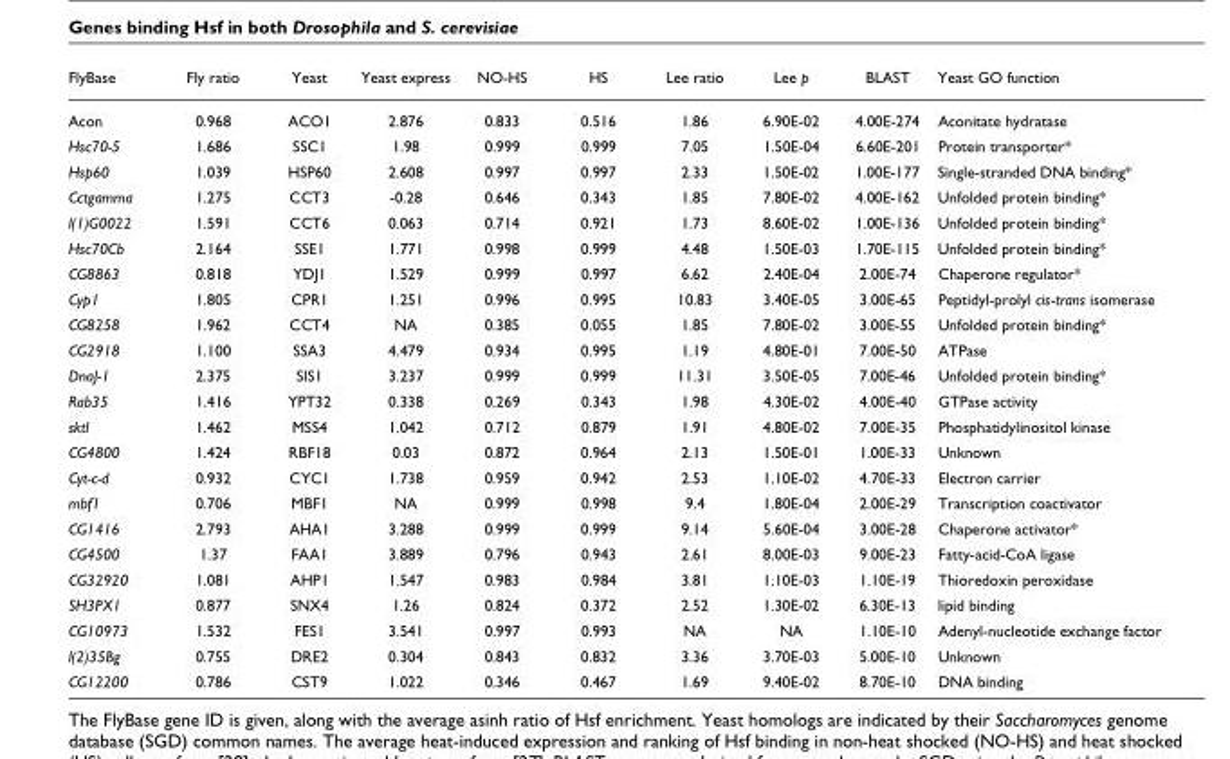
<table><thead><tr><td>FlyBase</td><td>Fly ratio</td><td>Yeast</td><td>Yeast express</td><td>NO-HS</td><td>HS</td><td>Lee ratio</td><td>Lee p</td><td>BLAST</td><td>Yeast GO function</td></tr></thead><tbody><tr><td>Acon</td><td>0.968</td><td>ACO1</td><td>2.876</td><td>0.833</td><td>0.516</td><td>1.86</td><td>6.90E-02</td><td>4.00E-274</td><td>Aconitate hydratase</td></tr><tr><td>Hsc70-5</td><td>1.686</td><td>SSC1</td><td>1.98</td><td>0.999</td><td>0.999</td><td>7.05</td><td>1.50E-04</td><td>6.60E-201</td><td>Protein transporter*</td></tr><tr><td>Hsp60</td><td>1.039</td><td>HSP60</td><td>2.608</td><td>0.997</td><td>0.997</td><td>2.33</td><td>1.50E-02</td><td>1.00E-177</td><td>Single-stranded DNA binding*</td></tr><tr><td>Cctgamma</td><td>1.275</td><td>CCT3</td><td>-0.28</td><td>0.646</td><td>0.343</td><td>1.85</td><td>7.80E-02</td><td>4.00E-162</td><td>Unfolded protein binding*</td></tr><tr><td>l(1)G0022</td><td>1.591</td><td>CCT6</td><td>0.063</td><td>0.714</td><td>0.921</td><td>1.73</td><td>8.60E-02</td><td>1.00E-136</td><td>Unfolded protein binding*</td></tr><tr><td>Hsc70Cb</td><td>2.164</td><td>SSE1</td><td>1.771</td><td>0.998</td><td>0.999</td><td>4.48</td><td>1.50E-03</td><td>1.70E-115</td><td>Unfolded protein binding*</td></tr><tr><td>CG8863</td><td>0.818</td><td>YDJ1</td><td>1.529</td><td>0.999</td><td>0.997</td><td>6.62</td><td>2.40E-04</td><td>2.00E-74</td><td>Chaperone regulator*</td></tr><tr><td>Cyp1</td><td>1.805</td><td>CPR1</td><td>1.251</td><td>0.996</td><td>0.995</td><td>10.83</td><td>3.40E-05</td><td>3.00E-65</td><td>Peptidyl-prolyl cis-trans isomerase</td></tr><tr><td>CG8258</td><td>1.962</td><td>CCT4</td><td>NA</td><td>0.385</td><td>0.055</td><td>1.85</td><td>7.80E-02</td><td>3.00E-55</td><td>Unfolded protein binding*</td></tr><tr><td>CG2918</td><td>1.100</td><td>SSA3</td><td>4.479</td><td>0.934</td><td>0.995</td><td>1.19</td><td>4.80E-01</td><td>7.00E-50</td><td>ATPase</td></tr><tr><td>DnaJ-1</td><td>2.375</td><td>SIS1</td><td>3.237</td><td>0.999</td><td>0.999</td><td>11.31</td><td>3.50E-05</td><td>7.00E-46</td><td>Unfolded protein binding*</td></tr><tr><td>Rab35</td><td>1.416</td><td>YPT32</td><td>0.338</td><td>0.269</td><td>0.343</td><td>1.98</td><td>4.30E-02</td><td>4.00E-40</td><td>GTPase activity</td></tr><tr><td>sktl</td><td>1.462</td><td>MSS4</td><td>1.042</td><td>0.712</td><td>0.879</td><td>1.91</td><td>4.80E-02</td><td>7.00E-35</td><td>Phosphatidylinositol kinase</td></tr><tr><td>CG4800</td><td>1.424</td><td>RBF18</td><td>0.03</td><td>0.872</td><td>0.964</td><td>2.13</td><td>1.50E-01</td><td>1.00E-33</td><td>Unknown</td></tr><tr><td>Cyt-c-d</td><td>0.932</td><td>CYC1</td><td>1.738</td><td>0.959</td><td>0.942</td><td>2.53</td><td>1.10E-02</td><td>4.70E-33</td><td>Electron carrier</td></tr><tr><td>mbf1</td><td>0.706</td><td>MBF1</td><td>NA</td><td>0.999</td><td>0.998</td><td>9.4</td><td>1.80E-04</td><td>2.00E-29</td><td>Transcription coactivator</td></tr><tr><td>CG1416</td><td>2.793</td><td>AHA1</td><td>3.288</td><td>0.999</td><td>0.999</td><td>9.14</td><td>5.60E-04</td><td>3.00E-28</td><td>Chaperone activator*</td></tr><tr><td>CG4500</td><td>1.37</td><td>FAA1</td><td>3.889</td><td>0.796</td><td>0.943</td><td>2.61</td><td>8.00E-03</td><td>9.00E-23</td><td>Fatty-acid-CoA ligase</td></tr><tr><td>CG32920</td><td>1.081</td><td>AHP1</td><td>1.547</td><td>0.983</td><td>0.984</td><td>3.81</td><td>1.10E-03</td><td>1.10E-19</td><td>Thioredoxin peroxidase</td></tr><tr><td>SH3PX1</td><td>0.877</td><td>SNX4</td><td>1.26</td><td>0.824</td><td>0.372</td><td>2.52</td><td>1.30E-02</td><td>6.30E-13</td><td>lipid binding</td></tr><tr><td>CG10973</td><td>1.532</td><td>FES1</td><td>3.541</td><td>0.997</td><td>0.993</td><td>NA</td><td>NA</td><td>1.10E-10</td><td>Adenyl-nucleotide exchange factor</td></tr><tr><td>l(2)35Bg</td><td>0.755</td><td>DRE2</td><td>0.304</td><td>0.843</td><td>0.832</td><td>3.36</td><td>3.70E-03</td><td>5.00E-10</td><td>Unknown</td></tr><tr><td>CG12200</td><td>0.786</td><td>CST9</td><td>1.022</td><td>0.346</td><td>0.467</td><td>1.69</td><td>9.40E-02</td><td>8.70E-10</td><td>DNA binding</td></tr></tbody></table>